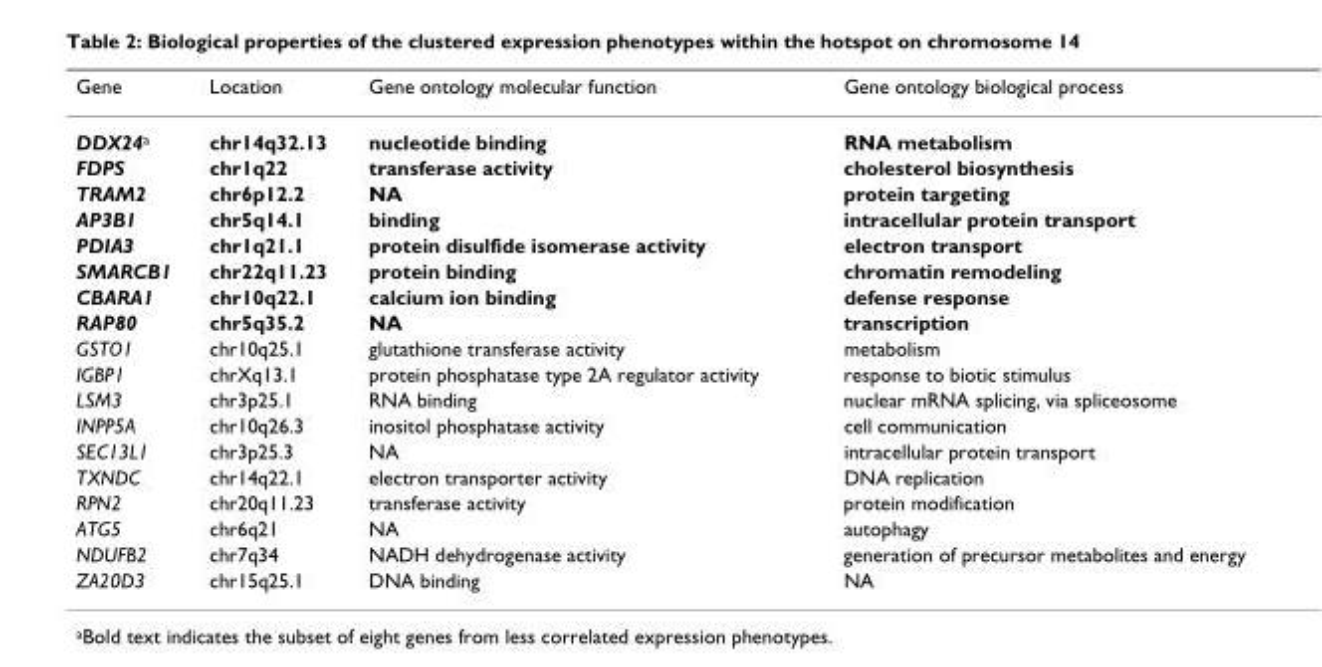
<table><thead><tr><td>Gene</td><td>Location</td><td>Gene ontology molecular function</td><td>Gene ontology biological process</td></tr></thead><tbody><tr><td>DDX24<sup>a</sup></td><td>chr14q32.13</td><td>nucleotide binding</td><td>RNA metabolism</td></tr><tr><td>FDPS</td><td>chr1q22</td><td>transferase activity</td><td>cholesterol biosynthesis</td></tr><tr><td>TRAM2</td><td>chr6p12.2</td><td>NA</td><td>protein targeting</td></tr><tr><td>AP3B1</td><td>chr5q14.1</td><td>binding</td><td>intracellular protein transport</td></tr><tr><td>PDIA3</td><td>chr1q21.1</td><td>protein disulfide isomerase activity</td><td>electron transport</td></tr><tr><td>SMARCB1</td><td>chr22q11.23</td><td>protein binding</td><td>chromatin remodeling</td></tr><tr><td>CBARA1</td><td>chr10q22.1</td><td>calcium ion binding</td><td>defense response</td></tr><tr><td>RAP80</td><td>chr5q35.2</td><td>NA</td><td>transcription</td></tr><tr><td>GSTO1</td><td>chr10q25.1</td><td>glutathione transferase activity</td><td>metabolism</td></tr><tr><td>IGBP1</td><td>chrXq13.1</td><td>protein phosphatase type 2A regulator activity</td><td>response to biotic stimulus</td></tr><tr><td>LSM3</td><td>chr3p25.1</td><td>RNA binding</td><td>nuclear mRNA splicing, via spliceosome</td></tr><tr><td>INPP5A</td><td>chr10q26.3</td><td>inositol phosphatase activity</td><td>cell communication</td></tr><tr><td>SEC13L1</td><td>chr3p25.3</td><td>NA</td><td>intracellular protein transport</td></tr><tr><td>TXNDC</td><td>chr14q22.1</td><td>electron transporter activity</td><td>DNA replication</td></tr><tr><td>RPN2</td><td>chr20q11.23</td><td>transferase activity</td><td>protein modification</td></tr><tr><td>ATG5</td><td>chr6q21</td><td>NA</td><td>autophagy</td></tr><tr><td>NDUFB2</td><td>chr7q34</td><td>NADH dehydrogenase activity</td><td>generation of precursor metabolites and energy</td></tr><tr><td>ZA20D3</td><td>chr15q25.1</td><td>DNA binding</td><td>NA</td></tr></tbody></table>